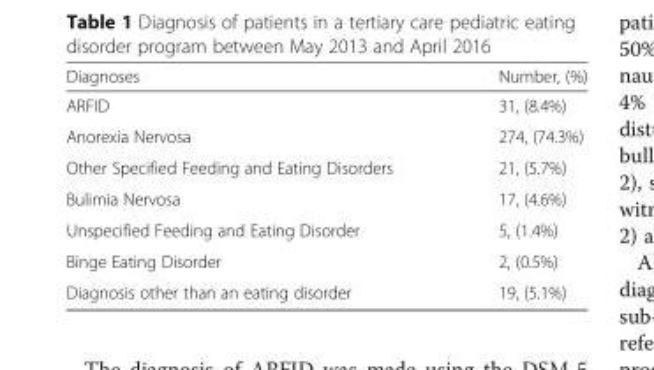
<table><thead><tr><td>Diagnoses</td><td>Number, (%)</td></tr></thead><tbody><tr><td>ARFID</td><td>31, (8.4%)</td></tr><tr><td>Anorexia Nervosa</td><td>274, (74.3%)</td></tr><tr><td>Other Specified Feeding and Eating Disorders</td><td>21, (5.7%)</td></tr><tr><td>Bulimia Nervosa</td><td>17, (4.6%)</td></tr><tr><td>Unspecified Feeding and Eating Disorder</td><td>5, (1.4%)</td></tr><tr><td>Binge Eating Disorder</td><td>2, (0.5%)</td></tr><tr><td>Diagnosis other than an eating disorder</td><td>19, (5.1%)</td></tr></tbody></table>